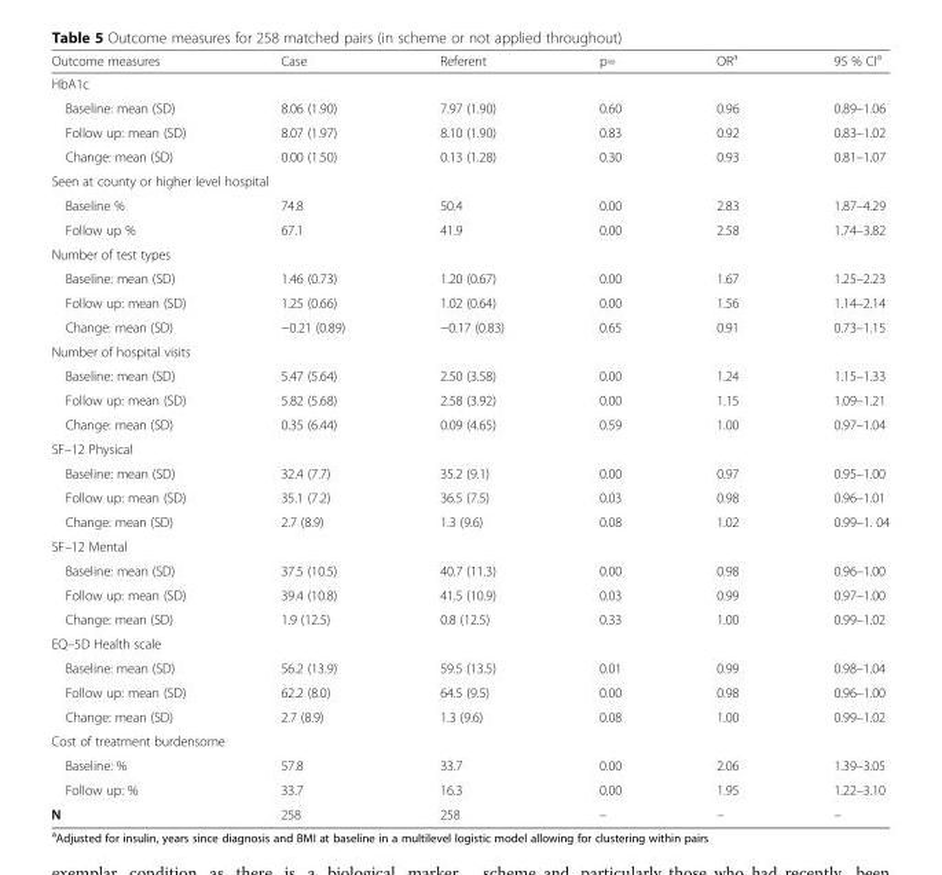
<table><thead><tr><td>Outcome measures</td><td>Case</td><td>Referent</td><td>p=</td><td>OR<sup>a</sup></td><td>95 % CI<sup>a</sup></td></tr></thead><tbody><tr><td colspan="6">HbA1c</td></tr><tr><td>Baseline: mean (SD)</td><td>8.06 (1.90)</td><td>7.97 (1.90)</td><td>0.60</td><td>0.96</td><td>0.89–1.06</td></tr><tr><td>Follow up: mean (SD)</td><td>8.07 (1.97)</td><td>8.10 (1.90)</td><td>0.83</td><td>0.92</td><td>0.83–1.02</td></tr><tr><td>Change: mean (SD)</td><td>0.00 (1.50)</td><td>0.13 (1.28)</td><td>0.30</td><td>0.93</td><td>0.81–1.07</td></tr><tr><td colspan="6">Seen at county or higher level hospital</td></tr><tr><td>Baseline %</td><td>74.8</td><td>50.4</td><td>0.00</td><td>2.83</td><td>1.87–4.29</td></tr><tr><td>Follow up %</td><td>67.1</td><td>41.9</td><td>0.00</td><td>2.58</td><td>1.74–3.82</td></tr><tr><td colspan="6">Number of test types</td></tr><tr><td>Baseline: mean (SD)</td><td>1.46 (0.73)</td><td>1.20 (0.67)</td><td>0.00</td><td>1.67</td><td>1.25–2.23</td></tr><tr><td>Follow up: mean (SD)</td><td>1.25 (0.66)</td><td>1.02 (0.64)</td><td>0.00</td><td>1.56</td><td>1.14–2.14</td></tr><tr><td>Change: mean (SD)</td><td>−0.21 (0.89)</td><td>−0.17 (0.83)</td><td>0.65</td><td>0.91</td><td>0.73–1.15</td></tr><tr><td colspan="6">Number of hospital visits</td></tr><tr><td>Baseline: mean (SD)</td><td>5.47 (5.64)</td><td>2.50 (3.58)</td><td>0.00</td><td>1.24</td><td>1.15–1.33</td></tr><tr><td>Follow up: mean (SD)</td><td>5.82 (5.68)</td><td>2.58 (3.92)</td><td>0.00</td><td>1.15</td><td>1.09–1.21</td></tr><tr><td>Change: mean (SD)</td><td>0.35 (6.44)</td><td>0.09 (4.65)</td><td>0.59</td><td>1.00</td><td>0.97–1.04</td></tr><tr><td colspan="6">SF–12 Physical</td></tr><tr><td>Baseline: mean (SD)</td><td>32.4 (7.7)</td><td>35.2 (9.1)</td><td>0.00</td><td>0.97</td><td>0.95–1.00</td></tr><tr><td>Follow up: mean (SD)</td><td>35.1 (7.2)</td><td>36.5 (7.5)</td><td>0.03</td><td>0.98</td><td>0.96–1.01</td></tr><tr><td>Change: mean (SD)</td><td>2.7 (8.9)</td><td>1.3 (9.6)</td><td>0.08</td><td>1.02</td><td>0.99–1. 04</td></tr><tr><td colspan="6">SF–12 Mental</td></tr><tr><td>Baseline: mean (SD)</td><td>37.5 (10.5)</td><td>40.7 (11.3)</td><td>0.00</td><td>0.98</td><td>0.96–1.00</td></tr><tr><td>Follow up: mean (SD)</td><td>39.4 (10.8)</td><td>41.5 (10.9)</td><td>0.03</td><td>0.99</td><td>0.97–1.00</td></tr><tr><td>Change: mean (SD)</td><td>1.9 (12.5)</td><td>0.8 (12.5)</td><td>0.33</td><td>1.00</td><td>0.99–1.02</td></tr><tr><td colspan="6">EQ–5D Health scale</td></tr><tr><td>Baseline: mean (SD)</td><td>56.2 (13.9)</td><td>59.5 (13.5)</td><td>0.01</td><td>0.99</td><td>0.98–1.04</td></tr><tr><td>Follow up: mean (SD)</td><td>62.2 (8.0)</td><td>64.5 (9.5)</td><td>0.00</td><td>0.98</td><td>0.96–1.00</td></tr><tr><td>Change: mean (SD)</td><td>2.7 (8.9)</td><td>1.3 (9.6)</td><td>0.08</td><td>1.00</td><td>0.99–1.02</td></tr><tr><td colspan="6">Cost of treatment burdensome</td></tr><tr><td>Baseline: %</td><td>57.8</td><td>33.7</td><td>0.00</td><td>2.06</td><td>1.39–3.05</td></tr><tr><td>Follow up: %</td><td>33.7</td><td>16.3</td><td>0.00</td><td>1.95</td><td>1.22–3.10</td></tr><tr><td>N</td><td>258</td><td>258</td><td>–</td><td>–</td><td>–</td></tr></tbody></table>